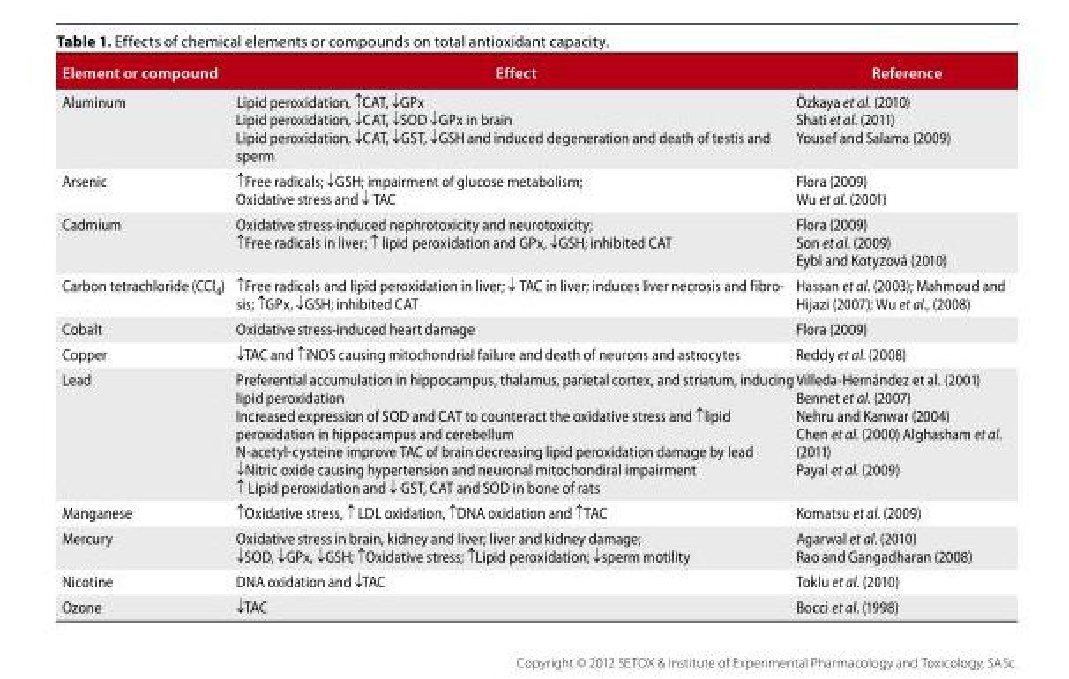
<table><thead><tr><td>Element or compound</td><td>Effect</td><td>Reference</td></tr></thead><tbody><tr><td>Aluminum</td><td>Lipid peroxidation, ↑CAT, ↓GPx Lipid peroxidation, ↓CAT, ↓SOD ↓GPx in brain Lipid peroxidation, ↓CAT, ↓GST, ↓GSH and induced degeneration and death of testis and sperm</td><td>Özkaya et al. (2010) Shati et al. (2011) Yousef and Salama (2009)</td></tr><tr><td>Arsenic</td><td>↑Free radicals; ↓GSH; impairment of glucose metabolism; Oxidative stress and ↓ TAC</td><td>Flora (2009) Wu et al. (2001)</td></tr><tr><td>Cadmium</td><td>Oxidative stress-induced nephrotoxicity and neurotoxicity; ↑Free radicals in liver; ↑ lipid peroxidation and GPx, ↓GSH; inhibited CAT</td><td>Flora (2009) Son et al. (2009) Eybl and Kotyzová (2010)</td></tr><tr><td>Carbon tetrachloride (CCl<sub>4</sub>)</td><td>Free radicals and lipid peroxidation in liver;  TAC in liver; induces liver necrosis and fibro- sis; GPx, GSH; inhibited CAT</td><td>Hassan et al. (2003); Mahmoud and Hijazi (2007); Wu et al., (2008)</td></tr><tr><td>Cobalt</td><td>Oxidative stress-induced heart damage</td><td>Flora (2009)</td></tr><tr><td>Copper</td><td>↓TAC and ↑iNOS causing mitochondrial failure and death of neurons and astrocytes</td><td>Reddy et al. (2008)</td></tr><tr><td>Lead</td><td>Preferential accumulation in hippocampus, thalamus, parietal cortex, and striatum, inducing lipid peroxidation Increased expression of SOD and CAT to counteract the oxidative stress and ↑lipid peroxidation in hippocampus and cerebellum N-acetyl-cysteine improve TAC of brain decreasing lipid peroxidation damage by lead ↓Nitric oxide causing hypertension and neuronal mitochondiral impairment ↑ Lipid peroxidation and ↓ GST, CAT and SOD in bone of rats</td><td>Villeda-Hernández et al. (2001) Bennet et al. (2007) Nehru and Kanwar (2004) Chen et al. (2000) Alghasham et al. (2011) Payal et al. (2009)</td></tr><tr><td>Manganese</td><td>↑Oxidative stress, ↑ LDL oxidation, ↑DNA oxidation and ↑TAC</td><td>Komatsu et al. (2009)</td></tr><tr><td>Mercury</td><td>Oxidative stress in brain, kidney and liver; liver and kidney damage; ↓SOD, ↓GPx, ↓GSH; ↑Oxidative stress; ↑Lipid peroxidation; ↓sperm motility</td><td>Agarwal et al. (2010) Rao and Gangadharan (2008)</td></tr><tr><td>Nicotine</td><td>DNA oxidation and ↓TAC</td><td>Toklu et al. (2010)</td></tr><tr><td>Ozone</td><td>↓TAC</td><td>Bocci et al. (1998)</td></tr></tbody></table>